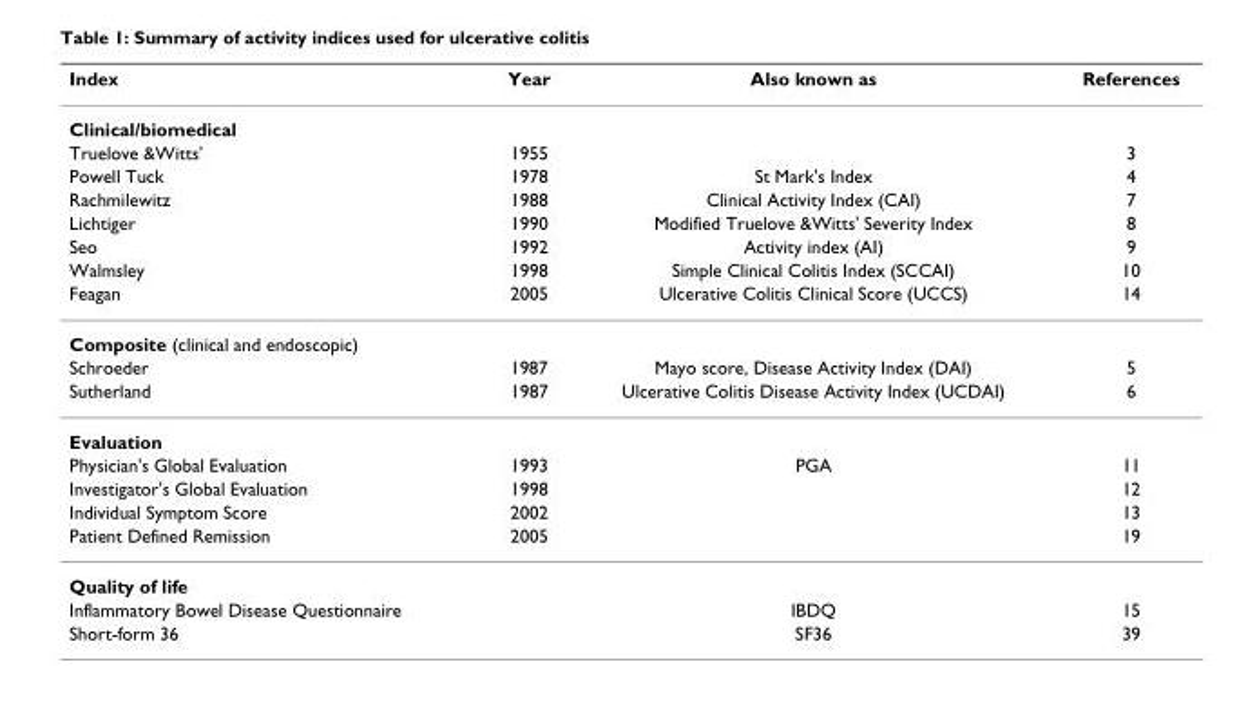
<table><thead><tr><td>Index</td><td>Year</td><td>Also known as</td><td>References</td></tr></thead><tbody><tr><td colspan="4">Clinical/biomedical</td></tr><tr><td>Truelove &amp;Witts&#x27;</td><td>1955</td><td></td><td>3</td></tr><tr><td>Powell Tuck</td><td>1978</td><td>St Mark&#x27;s Index</td><td>4</td></tr><tr><td>Rachmilewitz</td><td>1988</td><td>Clinical Activity Index (CAI)</td><td>7</td></tr><tr><td>Lichtiger</td><td>1990</td><td>Modified Truelove &amp;Witts&#x27; Severity Index</td><td>8</td></tr><tr><td>Seo</td><td>1992</td><td>Activity index (AI)</td><td>9</td></tr><tr><td>Walmsley</td><td>1998</td><td>Simple Clinical Colitis Index (SCCAI)</td><td>10</td></tr><tr><td>Feagan</td><td>2005</td><td>Ulcerative Colitis Clinical Score (UCCS)</td><td>14</td></tr><tr><td colspan="4">Composite (clinical and endoscopic)</td></tr><tr><td>Schroeder</td><td>1987</td><td>Mayo score, Disease Activity Index (DAI)</td><td>5</td></tr><tr><td>Sutherland</td><td>1987</td><td>Ulcerative Colitis Disease Activity Index (UCDAI)</td><td>6</td></tr><tr><td colspan="4">Evaluation</td></tr><tr><td>Physician&#x27;s Global Evaluation</td><td>1993</td><td>PGA</td><td>11</td></tr><tr><td>Investigator&#x27;s Global Evaluation</td><td>1998</td><td></td><td>12</td></tr><tr><td>Individual Symptom Score</td><td>2002</td><td></td><td>13</td></tr><tr><td>Patient Defined Remission</td><td>2005</td><td></td><td>19</td></tr><tr><td colspan="4">Quality of life</td></tr><tr><td>Inflammatory Bowel Disease Questionnaire</td><td></td><td>IBDQ</td><td>15</td></tr><tr><td>Short-form 36</td><td></td><td>SF36</td><td>39</td></tr></tbody></table>